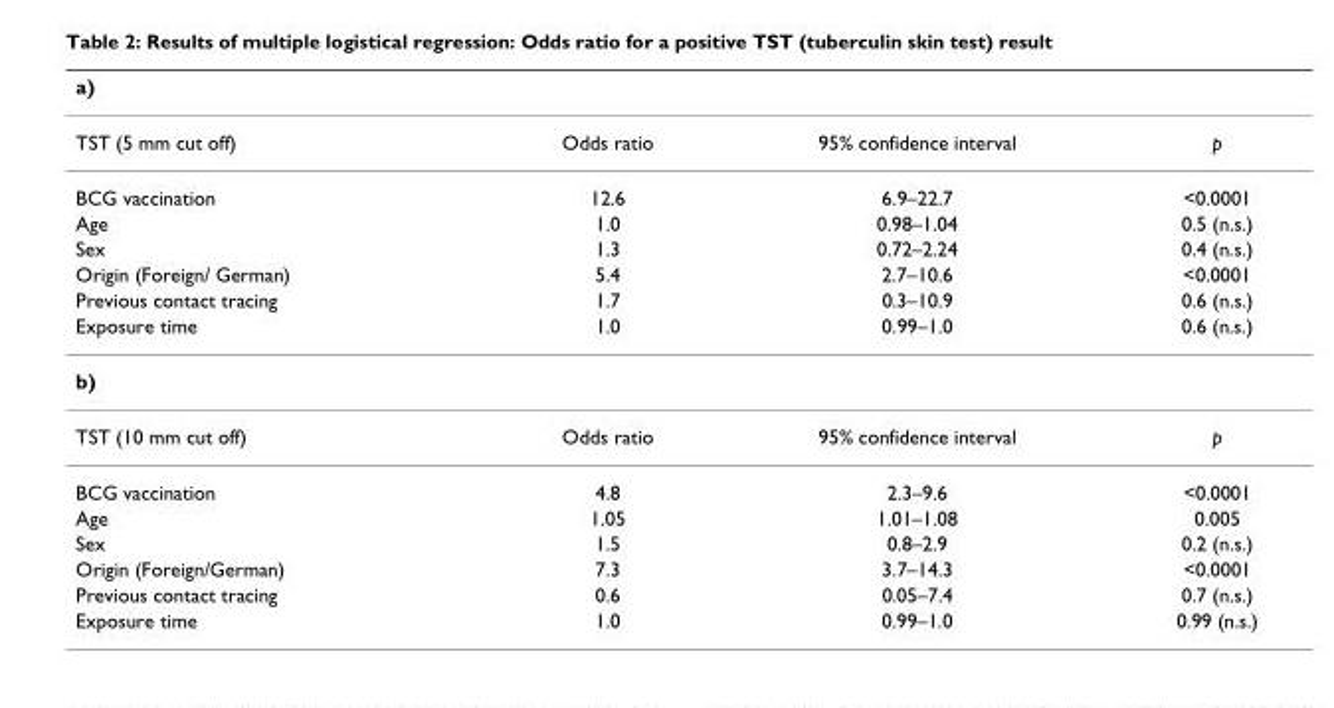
<table><thead><tr><td colspan="4">a)</td></tr><tr><td>TST (5 mm cut off)</td><td>Odds ratio</td><td>95% confidence interval</td><td>p</td></tr></thead><tbody><tr><td>BCG vaccination</td><td>12.6</td><td>6.9–22.7</td><td>&lt;0.0001</td></tr><tr><td>Age</td><td>1.0</td><td>0.98–1.04</td><td>0.5 (n.s.)</td></tr><tr><td>Sex</td><td>1.3</td><td>0.72–2.24</td><td>0.4 (n.s.)</td></tr><tr><td>Origin (Foreign/ German)</td><td>5.4</td><td>2.7–10.6</td><td>&lt;0.0001</td></tr><tr><td>Previous contact tracing</td><td>1.7</td><td>0.3–10.9</td><td>0.6 (n.s.)</td></tr><tr><td>Exposure time</td><td>1.0</td><td>0.99–1.0</td><td>0.6 (n.s.)</td></tr><tr><td colspan="4">b)</td></tr><tr><td>TST (10 mm cut off)</td><td>Odds ratio</td><td>95% confidence interval</td><td>p</td></tr><tr><td>BCG vaccination</td><td>4.8</td><td>2.3–9.6</td><td>&lt;0.0001</td></tr><tr><td>Age</td><td>1.05</td><td>1.01–1.08</td><td>0.005</td></tr><tr><td>Sex</td><td>1.5</td><td>0.8–2.9</td><td>0.2 (n.s.)</td></tr><tr><td>Origin (Foreign/German)</td><td>7.3</td><td>3.7–14.3</td><td>&lt;0.0001</td></tr><tr><td>Previous contact tracing</td><td>0.6</td><td>0.05–7.4</td><td>0.7 (n.s.)</td></tr><tr><td>Exposure time</td><td>1.0</td><td>0.99–1.0</td><td>0.99 (n.s.)</td></tr></tbody></table>